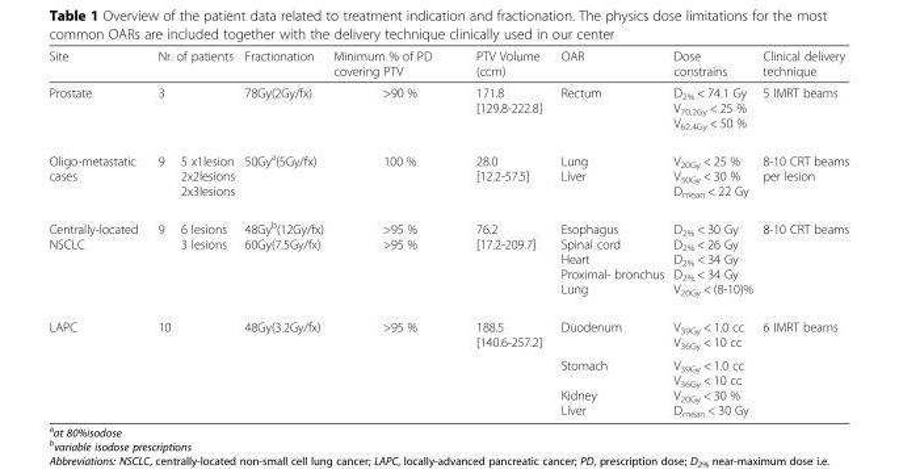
<table><thead><tr><td rowspan="2">Site Prostate</td><td colspan="2">Nr. of patients</td><td rowspan="2">Fractionation 78Gy(2Gy/fx)</td><td rowspan="2">Minimum % of PD covering PTV &gt;90 %</td><td rowspan="2">PTV Volume (ccm) 171.8 [129.8-222.8]</td><td rowspan="2">OAR Rectum</td><td rowspan="2">Dose constrains D<sub>2%</sub> &lt; 74.1 Gy V<sub>70.2Gy</sub> &lt; 25 % V<sub>62.4Gy</sub> &lt; 50 %</td><td rowspan="2">Clinical delivery technique 5 IMRT beams</td></tr><tr><td>3</td><td></td></tr></thead><tbody><tr><td>Oligo-metastatic cases</td><td>9</td><td>5 x1lesion 2x2lesions 2x3lesions</td><td>50Gy<sup>a</sup>(5Gy/fx)</td><td>100 %</td><td>28.0 [12.2-57.5]</td><td>Lung Liver</td><td>V<sub>20Gy</sub> &lt; 25 % V<sub>30Gy</sub> &lt; 30 % D<sub>mean</sub> &lt; 22 Gy</td><td>8-10 CRT beams per lesion</td></tr><tr><td>Centrally-located NSCLC</td><td>9</td><td>6 lesions 3 lesions</td><td>48Gy<sup>b</sup>(12Gy/fx) 60Gy(7.5Gy/fx)</td><td>&gt;95 % &gt;95 %</td><td>76.2 [17.2-209.7]</td><td>Esophagus Spinal cord Heart Proximal- bronchus Lung</td><td>D<sub>2%</sub> &lt; 30 Gy D<sub>2%</sub> &lt; 26 Gy D<sub>2%</sub> &lt; 34 Gy D<sub>2%</sub> &lt; 34 Gy V<sub>20Gy</sub> &lt; (8-10)%</td><td>8-10 CRT beams</td></tr><tr><td rowspan="2">LAPC</td><td rowspan="2">10</td><td rowspan="2"></td><td rowspan="2">48Gy(3.2Gy/fx)</td><td rowspan="2">&gt;95 %</td><td rowspan="2">188.5 [140.6-257.2]</td><td>Duodenum</td><td>V<sub>39Gy</sub> &lt; 1.0 cc V<sub>36Gy</sub> &lt; 10 cc</td><td rowspan="2">6 IMRT beams</td></tr><tr><td>Stomach Kidney Liver</td><td>V<sub>39Gy</sub> &lt; 1.0 cc V<sub>36Gy</sub> &lt; 10 cc V<sub>20Gy</sub> &lt; 30 % D<sub>mean</sub> &lt; 30 Gy</td></tr></tbody></table>